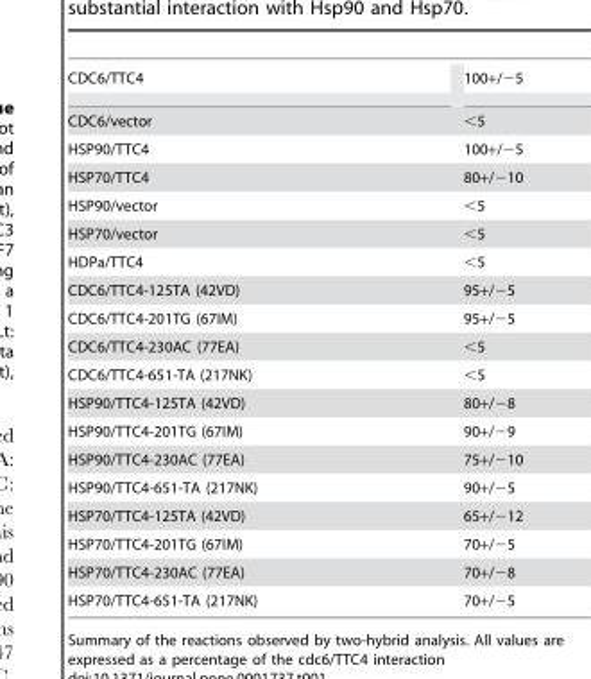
<table><tbody><tr><td>CDC6/TTC4</td><td>100+/−5</td></tr><tr><td>CDC6/vector</td><td>&lt;5</td></tr><tr><td>HSP90/TTC4</td><td>100+/−5</td></tr><tr><td>HSP70/TTC4</td><td>80+/−10</td></tr><tr><td>HSP90/vector</td><td>&lt;5</td></tr><tr><td>HSP70/vector</td><td>&lt;5</td></tr><tr><td>HDPa/TTC4</td><td>&lt;5</td></tr><tr><td>CDC6/TTC4-125TA (42VD)</td><td>95+/−5</td></tr><tr><td>CDC6/TTC4-201TG (67IM)</td><td>95+/−5</td></tr><tr><td>CDC6/TTC4-230AC (77EA)</td><td>&lt;5</td></tr><tr><td>CDC6/TTC4-651-TA (217NK)</td><td>&lt;5</td></tr><tr><td>HSP90/TTC4-125TA (42VD)</td><td>80+/−8</td></tr><tr><td>HSP90/TTC4-201TG (67IM)</td><td>90+/−9</td></tr><tr><td>HSP90/TTC4-230AC (77EA)</td><td>75+/−10</td></tr><tr><td>HSP90/TTC4-651-TA (217NK)</td><td>90+/−5</td></tr><tr><td>HSP70/TTC4-125TA (42VD)</td><td>65+/−12</td></tr><tr><td>HSP70/TTC4-201TG (67IM)</td><td>70+/−5</td></tr><tr><td>HSP70/TTC4-230AC (77EA)</td><td>70+/−8</td></tr><tr><td>HSP70/TTC4-651-TA (217NK)</td><td>70+/−5</td></tr></tbody></table>